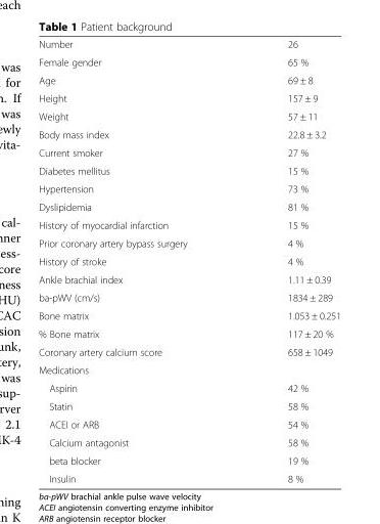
<table><tbody><tr><td>Number</td><td>26</td></tr><tr><td>Female gender</td><td>65 %</td></tr><tr><td>Age</td><td>69 ± 8</td></tr><tr><td>Height</td><td>157 ± 9</td></tr><tr><td>Weight</td><td>57 ± 11</td></tr><tr><td>Body mass index</td><td>22.8 ± 3.2</td></tr><tr><td>Current smoker</td><td>27 %</td></tr><tr><td>Diabetes mellitus</td><td>15 %</td></tr><tr><td>Hypertension</td><td>73 %</td></tr><tr><td>Dyslipidemia</td><td>81 %</td></tr><tr><td>History of myocardial infarction</td><td>15 %</td></tr><tr><td>Prior coronary artery bypass surgery</td><td>4 %</td></tr><tr><td>History of stroke</td><td>4 %</td></tr><tr><td>Ankle brachial index</td><td>1.11 ± 0.39</td></tr><tr><td>ba-pWV (cm/s)</td><td>1834 ± 289</td></tr><tr><td>Bone matrix</td><td>1.053 ± 0.251</td></tr><tr><td>% Bone matrix</td><td>117 ± 20 %</td></tr><tr><td>Coronary artery calcium score</td><td>658 ± 1049</td></tr><tr><td colspan="2">Medications</td></tr><tr><td>Aspirin</td><td>42 %</td></tr><tr><td>Statin</td><td>58 %</td></tr><tr><td>ACEI or ARB</td><td>54 %</td></tr><tr><td>Calcium antagonist</td><td>58 %</td></tr><tr><td>beta blocker</td><td>19 %</td></tr><tr><td>Insulin</td><td>8 %</td></tr></tbody></table>